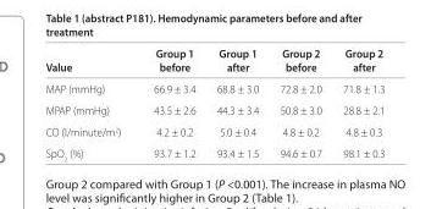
<table><thead><tr><td>Value</td><td>Group 1 before</td><td>Group 1 after</td><td>Group 2 before</td><td>Group 2 after</td></tr></thead><tbody><tr><td>MAP (mmHg)</td><td>66.9 ± 3.4</td><td>68.8 ± 3.0</td><td>72.8 ± 2.0</td><td>71.8 ± 1.3</td></tr><tr><td>MPAP (mmHg)</td><td>43.5 ± 2.6</td><td>44.3 ± 3.4</td><td>50.8 ± 3.0</td><td>28.8 ± 2.1</td></tr><tr><td>CO (l/minute/m<sup>2</sup>)</td><td>4.2 ± 0.2</td><td>5.0 ± 0.4</td><td>4.8 ± 0.2</td><td>4.8 ± 0.3</td></tr><tr><td>SpO<sub>2</sub> (%)</td><td>93.7 ± 1.2</td><td>93.4 ± 1.5</td><td>94.6 ± 0.7</td><td>98.1 ± 0.3</td></tr></tbody></table>